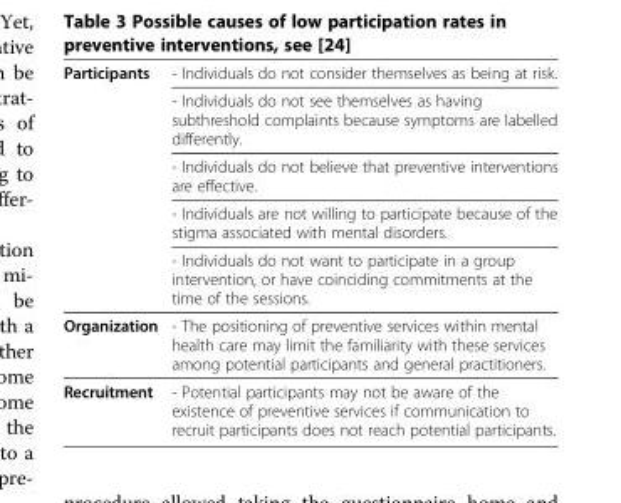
<table><tbody><tr><td rowspan="5">Participants</td><td>- Individuals do not consider themselves as being at risk.</td></tr><tr><td>- Individuals do not see themselves as having subthreshold complaints because symptoms are labelled differently.</td></tr><tr><td>- Individuals do not believe that preventive interventions are effective.</td></tr><tr><td>- Individuals are not willing to participate because of the stigma associated with mental disorders.</td></tr><tr><td>- Individuals do not want to participate in a group intervention, or have coinciding commitments at the time of the sessions.</td></tr><tr><td>Organization</td><td>- The positioning of preventive services within mental health care may limit the familiarity with these services among potential participants and general practitioners.</td></tr><tr><td>Recruitment</td><td>- Potential participants may not be aware of the existence of preventive services if communication to recruit participants does not reach potential participants.</td></tr></tbody></table>